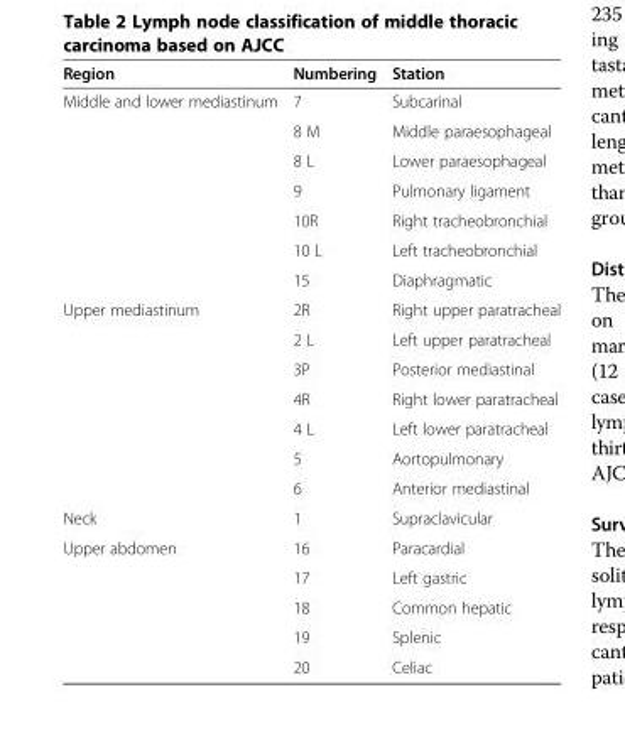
<table><thead><tr><td>Region</td><td>Numbering</td><td>Station</td></tr></thead><tbody><tr><td rowspan="7">Middle and lower mediastinum</td><td>7</td><td>Subcarinal</td></tr><tr><td>8 M</td><td>Middle paraesophageal</td></tr><tr><td>8 L</td><td>Lower paraesophageal</td></tr><tr><td>9</td><td>Pulmonary ligament</td></tr><tr><td>10R</td><td>Right tracheobronchial</td></tr><tr><td>10 L</td><td>Left tracheobronchial</td></tr><tr><td>15</td><td>Diaphragmatic</td></tr><tr><td rowspan="7">Upper mediastinum</td><td>2R</td><td>Right upper paratracheal</td></tr><tr><td>2 L</td><td>Left upper paratracheal</td></tr><tr><td>3P</td><td>Posterior mediastinal</td></tr><tr><td>4R</td><td>Right lower paratracheal</td></tr><tr><td>4 L</td><td>Left lower paratracheal</td></tr><tr><td>5</td><td>Aortopulmonary</td></tr><tr><td>6</td><td>Anterior mediastinal</td></tr><tr><td>Neck</td><td>1</td><td>Supraclavicular</td></tr><tr><td rowspan="5">Upper abdomen</td><td>16</td><td>Paracardial</td></tr><tr><td>17</td><td>Left gastric</td></tr><tr><td>18</td><td>Common hepatic</td></tr><tr><td>19</td><td>Splenic</td></tr><tr><td>20</td><td>Celiac</td></tr></tbody></table>